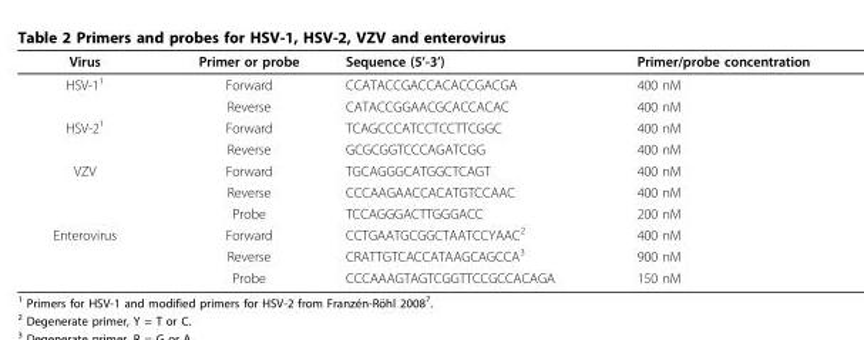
<table><thead><tr><td>Virus</td><td>Primer or probe</td><td>Sequence (5’-3’)</td><td>Primer/probe concentration</td></tr></thead><tbody><tr><td rowspan="2">HSV-1<sup>1</sup></td><td>Forward</td><td>CCATACCGACCACACCGACGA</td><td>400 nM</td></tr><tr><td>Reverse</td><td>CATACCGGAACGCACCACAC</td><td>400 nM</td></tr><tr><td rowspan="2">HSV-2<sup>1</sup></td><td>Forward</td><td>TCAGCCCATCCTCCTTCGGC</td><td>400 nM</td></tr><tr><td>Reverse</td><td>GCGCGGTCCCAGATCGG</td><td>400 nM</td></tr><tr><td rowspan="3">VZV</td><td>Forward</td><td>TGCAGGGCATGGCTCAGT</td><td>400 nM</td></tr><tr><td>Reverse</td><td>CCCAAGAACCACATGTCCAAC</td><td>400 nM</td></tr><tr><td>Probe</td><td>TCCAGGGACTTGGGACC</td><td>200 nM</td></tr><tr><td rowspan="3">Enterovirus</td><td>Forward</td><td>CCTGAATGCGGCTAATCCYAAC<sup>2</sup></td><td>400 nM</td></tr><tr><td>Reverse</td><td>CRATTGTCACCATAAGCAGCCA<sup>3</sup></td><td>900 nM</td></tr><tr><td>Probe</td><td>CCCAAAGTAGTCGGTTCCGCCACAGA</td><td>150 nM</td></tr></tbody></table>